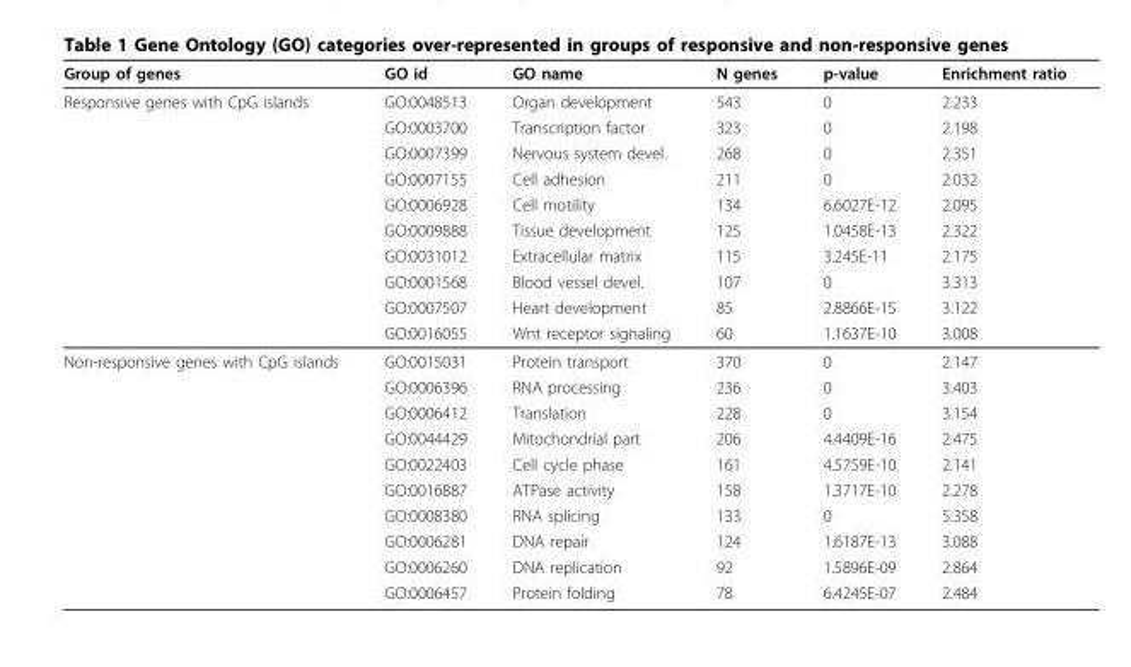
<table><thead><tr><td>Group of genes</td><td>GO id</td><td>GO name</td><td>N genes</td><td>p-value</td><td>Enrichment ratio</td></tr></thead><tbody><tr><td rowspan="10">Responsive genes with CpG islands</td><td>GO:0048513</td><td>Organ development</td><td>543</td><td>0</td><td>2.233</td></tr><tr><td>GO:0003700</td><td>Transcription factor</td><td>323</td><td>0</td><td>2.198</td></tr><tr><td>GO:0007399</td><td>Nervous system devel.</td><td>268</td><td>0</td><td>2.351</td></tr><tr><td>GO:0007155</td><td>Cell adhesion</td><td>211</td><td>0</td><td>2.032</td></tr><tr><td>GO:0006928</td><td>Cell motility</td><td>134</td><td>6.6027E-12</td><td>2.095</td></tr><tr><td>GO:0009888</td><td>Tissue development</td><td>125</td><td>1.0458E-13</td><td>2.322</td></tr><tr><td>GO:0031012</td><td>Extracellular matrix</td><td>115</td><td>3.245E-11</td><td>2.175</td></tr><tr><td>GO:0001568</td><td>Blood vessel devel.</td><td>107</td><td>0</td><td>3.313</td></tr><tr><td>GO:0007507</td><td>Heart development</td><td>85</td><td>2.8866E-15</td><td>3.122</td></tr><tr><td>GO:0016055</td><td>Wnt receptor signaling</td><td>60</td><td>1.1637E-10</td><td>3.008</td></tr><tr><td rowspan="10">Non-responsive genes with CpG islands</td><td>GO:0015031</td><td>Protein transport</td><td>370</td><td>0</td><td>2.147</td></tr><tr><td>GO:0006396</td><td>RNA processing</td><td>236</td><td>0</td><td>3.403</td></tr><tr><td>GO:0006412</td><td>Translation</td><td>228</td><td>0</td><td>3.154</td></tr><tr><td>GO:0044429</td><td>Mitochondrial part</td><td>206</td><td>4.4409E-16</td><td>2.475</td></tr><tr><td>GO:0022403</td><td>Cell cycle phase</td><td>161</td><td>4.5759E-10</td><td>2.141</td></tr><tr><td>GO:0016887</td><td>ATPase activity</td><td>158</td><td>1.3717E-10</td><td>2.278</td></tr><tr><td>GO:0008380</td><td>RNA splicing</td><td>133</td><td>0</td><td>5.358</td></tr><tr><td>GO:0006281</td><td>DNA repair</td><td>124</td><td>1.6187E-13</td><td>3.088</td></tr><tr><td>GO:0006260</td><td>DNA replication</td><td>92</td><td>1.5896E-09</td><td>2.864</td></tr><tr><td>GO:0006457</td><td>Protein folding</td><td>78</td><td>6.4245E-07</td><td>2.484</td></tr></tbody></table>